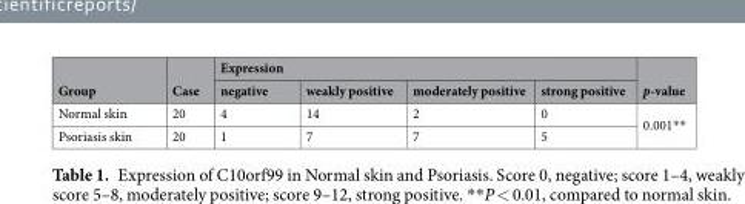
<table><thead><tr><td rowspan="2">Group</td><td rowspan="2">Case</td><td colspan="4">Expression</td><td rowspan="2">p-value</td></tr><tr><td>negative</td><td>weakly positive</td><td>moderately positive</td><td>strong positive</td></tr></thead><tbody><tr><td>Normal skin</td><td>20</td><td>4</td><td>14</td><td>2</td><td>0</td><td rowspan="2">0.001**</td></tr><tr><td>Psoriasis skin</td><td>20</td><td>1</td><td>7</td><td>7</td><td>5</td></tr></tbody></table>